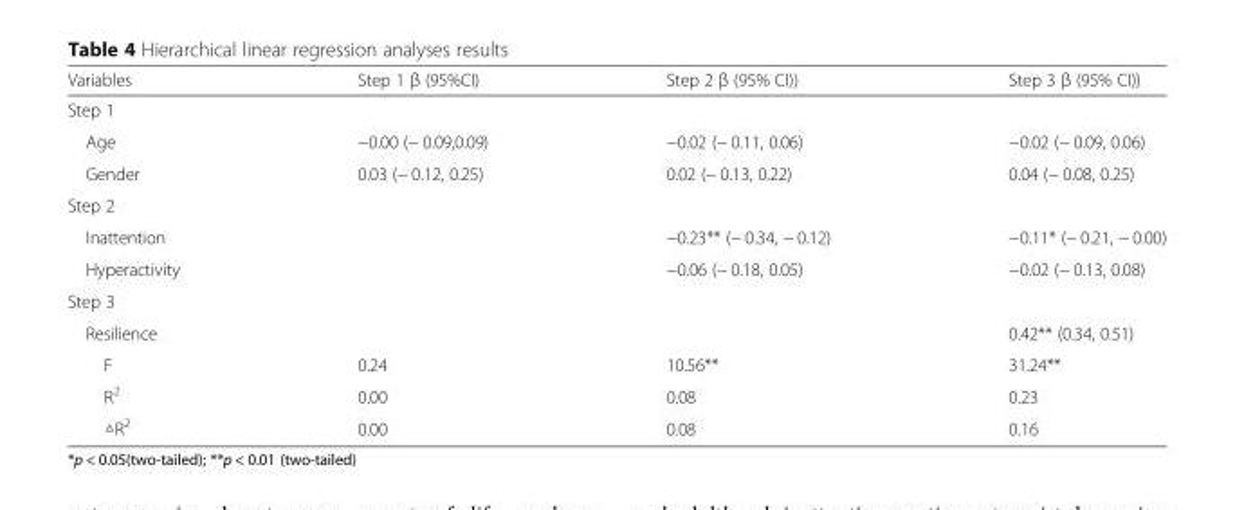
<table><thead><tr><td>Variables</td><td>Step 1 β (95%CI)</td><td>Step 2 β (95% CI))</td><td>Step 3 β (95% CI))</td></tr></thead><tbody><tr><td colspan="4">Step 1</td></tr><tr><td>Age</td><td>−0.00 (− 0.09,0.09)</td><td>−0.02 (− 0.11, 0.06)</td><td>−0.02 (− 0.09, 0.06)</td></tr><tr><td>Gender</td><td>0.03 (− 0.12, 0.25)</td><td>0.02 (− 0.13, 0.22)</td><td>0.04 (− 0.08, 0.25)</td></tr><tr><td colspan="4">Step 2</td></tr><tr><td>Inattention</td><td></td><td>−0.23** (− 0.34, − 0.12)</td><td>−0.11* (− 0.21, − 0.00)</td></tr><tr><td>Hyperactivity</td><td></td><td>−0.06 (− 0.18, 0.05)</td><td>−0.02 (− 0.13, 0.08)</td></tr><tr><td colspan="4">Step 3</td></tr><tr><td>Resilience</td><td></td><td></td><td>0.42** (0.34, 0.51)</td></tr><tr><td>F</td><td>0.24</td><td>10.56**</td><td>31.24**</td></tr><tr><td>R<sup>2</sup></td><td>0.00</td><td>0.08</td><td>0.23</td></tr><tr><td>△R<sup>2</sup></td><td>0.00</td><td>0.08</td><td>0.16</td></tr></tbody></table>